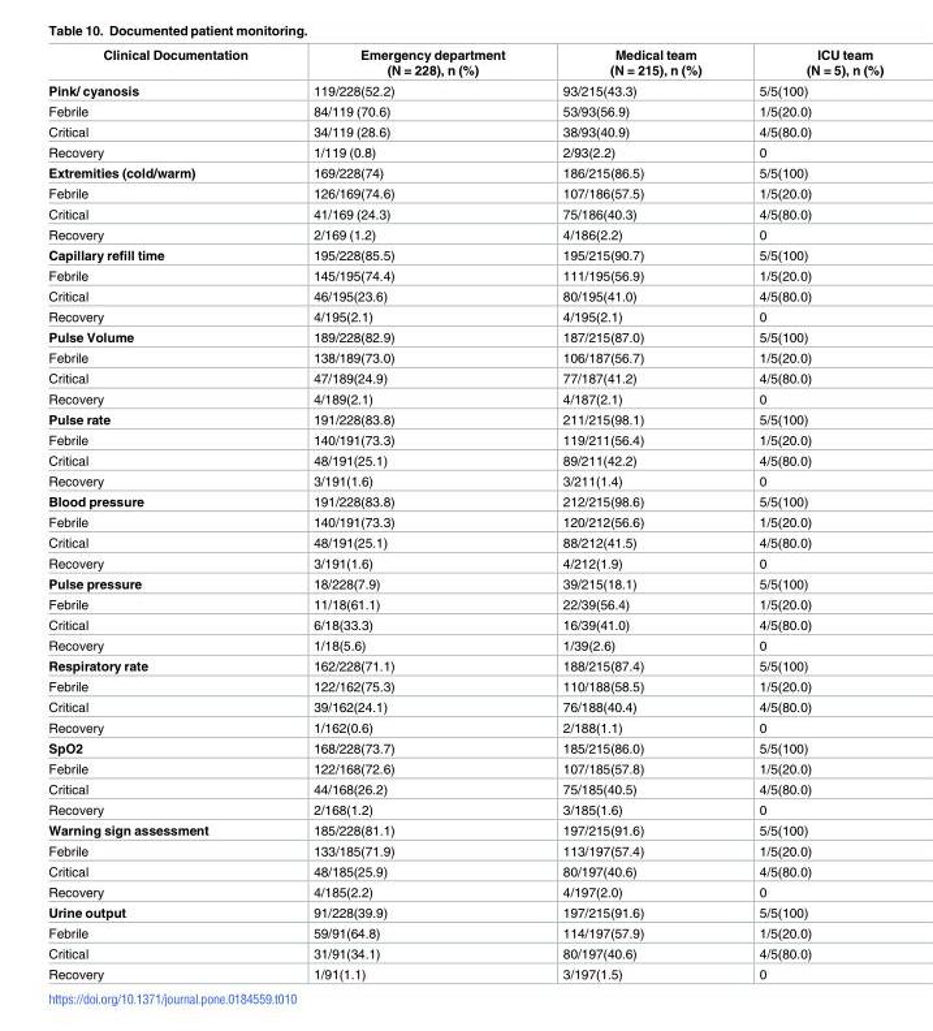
<table><thead><tr><td>Clinical Documentation</td><td>Emergency department (N = 228), n (%)</td><td>Medical team (N = 215), n (%)</td><td>ICU team (N = 5), n (%)</td></tr></thead><tbody><tr><td>Pink/ cyanosis</td><td>119/228(52.2)</td><td>93/215(43.3)</td><td>5/5(100)</td></tr><tr><td>Febrile</td><td>84/119 (70.6)</td><td>53/93(56.9)</td><td>1/5(20.0)</td></tr><tr><td>Critical</td><td>34/119 (28.6)</td><td>38/93(40.9)</td><td>4/5(80.0)</td></tr><tr><td>Recovery</td><td>1/119 (0.8)</td><td>2/93(2.2)</td><td>0</td></tr><tr><td>Extremities (cold/warm)</td><td>169/228(74)</td><td>186/215(86.5)</td><td>5/5(100)</td></tr><tr><td>Febrile</td><td>126/169(74.6)</td><td>107/186(57.5)</td><td>1/5(20.0)</td></tr><tr><td>Critical</td><td>41/169 (24.3)</td><td>75/186(40.3)</td><td>4/5(80.0)</td></tr><tr><td>Recovery</td><td>2/169 (1.2)</td><td>4/186(2.2)</td><td>0</td></tr><tr><td>Capillary refill time</td><td>195/228(85.5)</td><td>195/215(90.7)</td><td>5/5(100)</td></tr><tr><td>Febrile</td><td>145/195(74.4)</td><td>111/195(56.9)</td><td>1/5(20.0)</td></tr><tr><td>Critical</td><td>46/195(23.6)</td><td>80/195(41.0)</td><td>4/5(80.0)</td></tr><tr><td>Recovery</td><td>4/195(2.1)</td><td>4/195(2.1)</td><td>0</td></tr><tr><td>Pulse Volume</td><td>189/228(82.9)</td><td>187/215(87.0)</td><td>5/5(100)</td></tr><tr><td>Febrile</td><td>138/189(73.0)</td><td>106/187(56.7)</td><td>1/5(20.0)</td></tr><tr><td>Critical</td><td>47/189(24.9)</td><td>77/187(41.2)</td><td>4/5(80.0)</td></tr><tr><td>Recovery</td><td>4/189(2.1)</td><td>4/187(2.1)</td><td>0</td></tr><tr><td>Pulse rate</td><td>191/228(83.8)</td><td>211/215(98.1)</td><td>5/5(100)</td></tr><tr><td>Febrile</td><td>140/191(73.3)</td><td>119/211(56.4)</td><td>1/5(20.0)</td></tr><tr><td>Critical</td><td>48/191(25.1)</td><td>89/211(42.2)</td><td>4/5(80.0)</td></tr><tr><td>Recovery</td><td>3/191(1.6)</td><td>3/211(1.4)</td><td>0</td></tr><tr><td>Blood pressure</td><td>191/228(83.8)</td><td>212/215(98.6)</td><td>5/5(100)</td></tr><tr><td>Febrile</td><td>140/191(73.3)</td><td>120/212(56.6)</td><td>1/5(20.0)</td></tr><tr><td>Critical</td><td>48/191(25.1)</td><td>88/212(41.5)</td><td>4/5(80.0)</td></tr><tr><td>Recovery</td><td>3/191(1.6)</td><td>4/212(1.9)</td><td>0</td></tr><tr><td>Pulse pressure</td><td>18/228(7.9)</td><td>39/215(18.1)</td><td>5/5(100)</td></tr><tr><td>Febrile</td><td>11/18(61.1)</td><td>22/39(56.4)</td><td>1/5(20.0)</td></tr><tr><td>Critical</td><td>6/18(33.3)</td><td>16/39(41.0)</td><td>4/5(80.0)</td></tr><tr><td>Recovery</td><td>1/18(5.6)</td><td>1/39(2.6)</td><td>0</td></tr><tr><td>Respiratory rate</td><td>162/228(71.1)</td><td>188/215(87.4)</td><td>5/5(100)</td></tr><tr><td>Febrile</td><td>122/162(75.3)</td><td>110/188(58.5)</td><td>1/5(20.0)</td></tr><tr><td>Critical</td><td>39/162(24.1)</td><td>76/188(40.4)</td><td>4/5(80.0)</td></tr><tr><td>Recovery</td><td>1/162(0.6)</td><td>2/188(1.1)</td><td>0</td></tr><tr><td>SpO2</td><td>168/228(73.7)</td><td>185/215(86.0)</td><td>5/5(100)</td></tr><tr><td>Febrile</td><td>122/168(72.6)</td><td>107/185(57.8)</td><td>1/5(20.0)</td></tr><tr><td>Critical</td><td>44/168(26.2)</td><td>75/185(40.5)</td><td>4/5(80.0)</td></tr><tr><td>Recovery</td><td>2/168(1.2)</td><td>3/185(1.6)</td><td>0</td></tr><tr><td>Warning sign assessment</td><td>185/228(81.1)</td><td>197/215(91.6)</td><td>5/5(100)</td></tr><tr><td>Febrile</td><td>133/185(71.9)</td><td>113/197(57.4)</td><td>1/5(20.0)</td></tr><tr><td>Critical</td><td>48/185(25.9)</td><td>80/197(40.6)</td><td>4/5(80.0)</td></tr><tr><td>Recovery</td><td>4/185(2.2)</td><td>4/197(2.0)</td><td>0</td></tr><tr><td>Urine output</td><td>91/228(39.9)</td><td>197/215(91.6)</td><td>5/5(100)</td></tr><tr><td>Febrile</td><td>59/91(64.8)</td><td>114/197(57.9)</td><td>1/5(20.0)</td></tr><tr><td>Critical</td><td>31/91(34.1)</td><td>80/197(40.6)</td><td>4/5(80.0)</td></tr><tr><td>Recovery</td><td>1/91(1.1)</td><td>3/197(1.5)</td><td>0</td></tr></tbody></table>